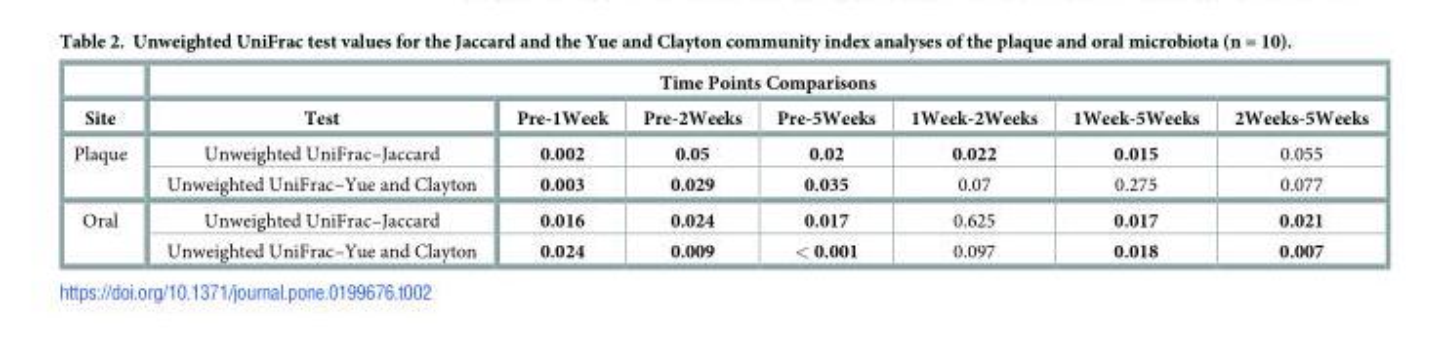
<table><thead><tr><td rowspan="2">Site</td><td colspan="7">Time Points Comparisons</td></tr><tr><td>Test</td><td>Pre-1Week</td><td>Pre-2Weeks</td><td>Pre-5Weeks</td><td>1Week-2Weeks</td><td>1Week-5Weeks</td><td>2Weeks-5Weeks</td></tr></thead><tbody><tr><td rowspan="2">Plaque</td><td>Unweighted UniFrac–Jaccard</td><td>0.002</td><td>0.05</td><td>0.02</td><td>0.022</td><td>0.015</td><td>0.055</td></tr><tr><td>Unweighted UniFrac–Yue and Clayton</td><td>0.003</td><td>0.029</td><td>0.035</td><td>0.07</td><td>0.275</td><td>0.077</td></tr><tr><td rowspan="2">Oral</td><td>Unweighted UniFrac–Jaccard</td><td>0.016</td><td>0.024</td><td>0.017</td><td>0.625</td><td>0.017</td><td>0.021</td></tr><tr><td>Unweighted UniFrac–Yue and Clayton</td><td>0.024</td><td>0.009</td><td>&lt; 0.001</td><td>0.097</td><td>0.018</td><td>0.007</td></tr></tbody></table>